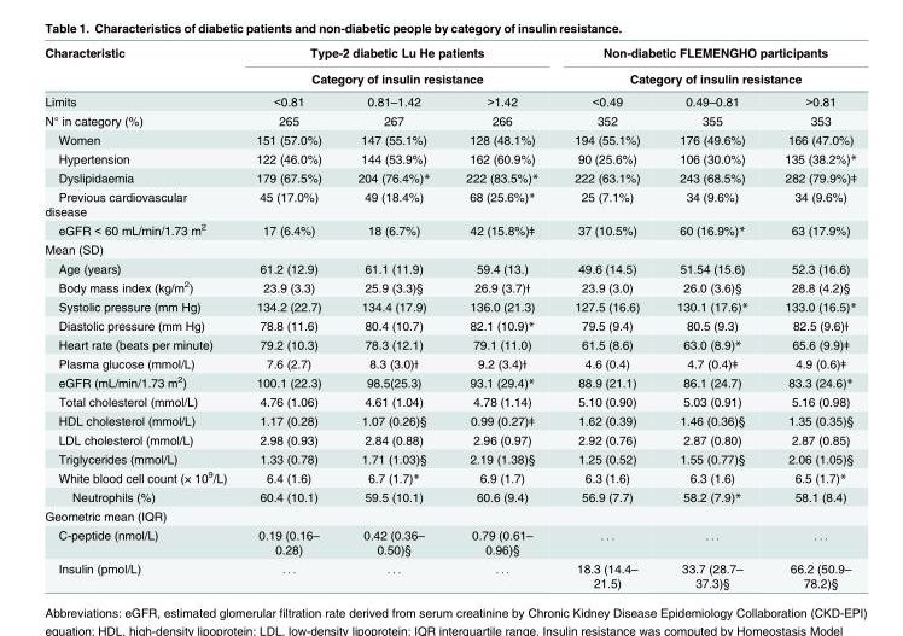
<table><thead><tr><td rowspan="3">Characteristic Limits</td><td rowspan="2" colspan="3">Type-2 diabetic Lu He patients Category of insulin resistance</td><td rowspan="2" colspan="3">Non-diabetic FLEMENGHO participants Category of insulin resistance</td></tr><tr></tr><tr><td>&lt;0.81</td><td>0.81–1.42</td><td>&gt;1.42</td><td>&lt;0.49</td><td>0.49–0.81</td><td>&gt;0.81</td></tr></thead><tbody><tr><td>N° in category (%)</td><td>265</td><td>267</td><td>266</td><td>352</td><td>355</td><td>353</td></tr><tr><td>Women</td><td>151 (57.0%)</td><td>147 (55.1%)</td><td>128 (48.1%)</td><td>194 (55.1%)</td><td>176 (49.6%)</td><td>166 (47.0%)</td></tr><tr><td>Hypertension</td><td>122 (46.0%)</td><td>144 (53.9%)</td><td>162 (60.9%)</td><td>90 (25.6%)</td><td>106 (30.0%)</td><td>135 (38.2%)*</td></tr><tr><td>Dyslipidaemia</td><td>179 (67.5%)</td><td>204 (76.4%)*</td><td>222 (83.5%)*</td><td>222 (63.1%)</td><td>243 (68.5%)</td><td>282 (79.9%)ǂ</td></tr><tr><td>Previous cardiovascular disease</td><td>45 (17.0%)</td><td>49 (18.4%)</td><td>68 (25.6%)*</td><td>25 (7.1%)</td><td>34 (9.6%)</td><td>34 (9.6%)</td></tr><tr><td>eGFR &lt; 60 mL/min/1.73 m<sup>2</sup></td><td>17 (6.4%)</td><td>18 (6.7%)</td><td>42 (15.8%)ǂ</td><td>37 (10.5%)</td><td>60 (16.9%)*</td><td>63 (17.9%)</td></tr><tr><td colspan="7">Mean (SD)</td></tr><tr><td>Age (years)</td><td>61.2 (12.9)</td><td>61.1 (11.9)</td><td>59.4 (13.)</td><td>49.6 (14.5)</td><td>51.54 (15.6)</td><td>52.3 (16.6)</td></tr><tr><td>Body mass index (kg/m<sup>2</sup>)</td><td>23.9 (3.3)</td><td>25.9 (3.3)§</td><td>26.9 (3.7)ɫ</td><td>23.9 (3.0)</td><td>26.0 (3.6)§</td><td>28.8 (4.2)§</td></tr><tr><td>Systolic pressure (mm Hg)</td><td>134.2 (22.7)</td><td>134.4 (17.9)</td><td>136.0 (21.3)</td><td>127.5 (16.6)</td><td>130.1 (17.6)*</td><td>133.0 (16.5)*</td></tr><tr><td>Diastolic pressure (mm Hg)</td><td>78.8 (11.6)</td><td>80.4 (10.7)</td><td>82.1 (10.9)*</td><td>79.5 (9.4)</td><td>80.5 (9.3)</td><td>82.5 (9.6)ɫ</td></tr><tr><td>Heart rate (beats per minute)</td><td>79.2 (10.3)</td><td>78.3 (12.1)</td><td>79.1 (11.0)</td><td>61.5 (8.6)</td><td>63.0 (8.9)*</td><td>65.6 (9.9)ǂ</td></tr><tr><td>Plasma glucose (mmol/L)</td><td>7.6 (2.7)</td><td>8.3 (3.0)ɫ</td><td>9.2 (3.4)ɫ</td><td>4.6 (0.4)</td><td>4.7 (0.4)ǂ</td><td>4.9 (0.6)ǂ</td></tr><tr><td>eGFR (mL/min/1.73 m<sup>2</sup>)</td><td>100.1 (22.3)</td><td>98.5(25.3)</td><td>93.1 (29.4)*</td><td>88.9 (21.1)</td><td>86.1 (24.7)</td><td>83.3 (24.6)*</td></tr><tr><td>Total cholesterol (mmol/L)</td><td>4.76 (1.06)</td><td>4.61 (1.04)</td><td>4.78 (1.14)</td><td>5.10 (0.90)</td><td>5.03 (0.91)</td><td>5.16 (0.98)</td></tr><tr><td>HDL cholesterol (mmol/L)</td><td>1.17 (0.28)</td><td>1.07 (0.26)§</td><td>0.99 (0.27)ǂ</td><td>1.62 (0.39)</td><td>1.46 (0.36)§</td><td>1.35 (0.35)§</td></tr><tr><td>LDL cholesterol (mmol/L)</td><td>2.98 (0.93)</td><td>2.84 (0.88)</td><td>2.96 (0.97)</td><td>2.92 (0.76)</td><td>2.87 (0.80)</td><td>2.87 (0.85)</td></tr><tr><td>Triglycerides (mmol/L)</td><td>1.33 (0.78)</td><td>1.71 (1.03)§</td><td>2.19 (1.38)§</td><td>1.25 (0.52)</td><td>1.55 (0.77)§</td><td>2.06 (1.05)§</td></tr><tr><td>White blood cell count (× 10<sup>9</sup>/L)</td><td>6.4 (1.6)</td><td>6.7 (1.7)*</td><td>6.9 (1.7)</td><td>6.3 (1.6)</td><td>6.3 (1.6)</td><td>6.5 (1.7)*</td></tr><tr><td>Neutrophils (%)</td><td>60.4 (10.1)</td><td>59.5 (10.1)</td><td>60.6 (9.4)</td><td>56.9 (7.7)</td><td>58.2 (7.9)*</td><td>58.1 (8.4)</td></tr><tr><td colspan="7">Geometric mean (IQR)</td></tr><tr><td>C-peptide (nmol/L)</td><td>0.19 (0.16– 0.28)</td><td>0.42 (0.36– 0.50)§</td><td>0.79 (0.61– 0.96)§</td><td>. . .</td><td>. . .</td><td>. . .</td></tr><tr><td>Insulin (pmol/L)</td><td>. . .</td><td>. . .</td><td>. . .</td><td>18.3 (14.4– 21.5)</td><td>33.7 (28.7– 37.3)§</td><td>66.2 (50.9– 78.2)§</td></tr></tbody></table>